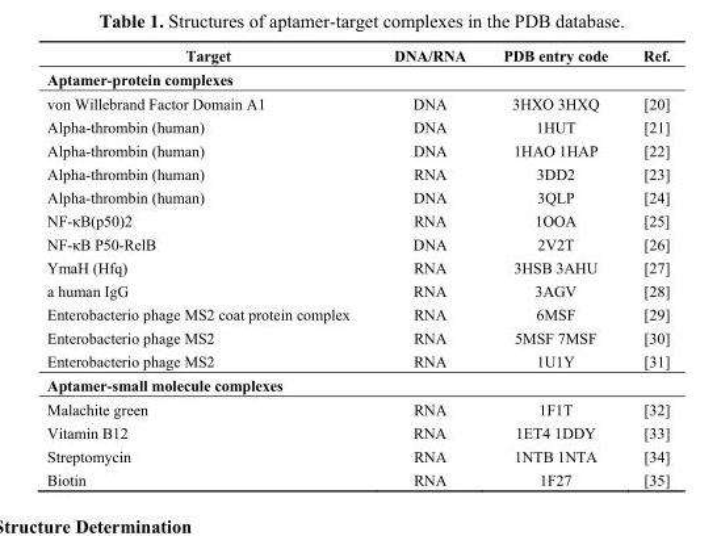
<table><thead><tr><td>Target</td><td>DNA/RNA</td><td>PDB entry code</td><td>Ref.</td></tr></thead><tbody><tr><td colspan="4">Aptamer-protein complexes</td></tr><tr><td>von Willebrand Factor Domain A1</td><td>DNA</td><td>3HXO 3HXQ</td><td>[20]</td></tr><tr><td>Alpha-thrombin (human)</td><td>DNA</td><td>1HUT</td><td>[21]</td></tr><tr><td>Alpha-thrombin (human)</td><td>DNA</td><td>1HAO 1HAP</td><td>[22]</td></tr><tr><td>Alpha-thrombin (human)</td><td>RNA</td><td>3DD2</td><td>[23]</td></tr><tr><td>Alpha-thrombin (human)</td><td>DNA</td><td>3QLP</td><td>[24]</td></tr><tr><td>NF-κB(p50)2</td><td>RNA</td><td>1OOA</td><td>[25]</td></tr><tr><td>NF-κB P50-RelB</td><td>DNA</td><td>2V2T</td><td>[26]</td></tr><tr><td>YmaH (Hfq)</td><td>RNA</td><td>3HSB 3AHU</td><td>[27]</td></tr><tr><td>a human IgG</td><td>RNA</td><td>3AGV</td><td>[28]</td></tr><tr><td>Enterobacterio phage MS2 coat protein complex</td><td>RNA</td><td>6MSF</td><td>[29]</td></tr><tr><td>Enterobacterio phage MS2</td><td>RNA</td><td>5MSF 7MSF</td><td>[30]</td></tr><tr><td>Enterobacterio phage MS2</td><td>RNA</td><td>1U1Y</td><td>[31]</td></tr><tr><td colspan="4">Aptamer-small molecule complexes</td></tr><tr><td>Malachite green</td><td>RNA</td><td>1F1T</td><td>[32]</td></tr><tr><td>Vitamin B12</td><td>RNA</td><td>1ET4 1DDY</td><td>[33]</td></tr><tr><td>Streptomycin</td><td>RNA</td><td>1NTB 1NTA</td><td>[34]</td></tr><tr><td>Biotin</td><td>RNA</td><td>1F27</td><td>[35]</td></tr></tbody></table>